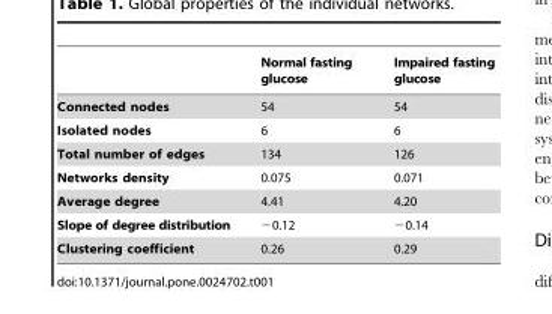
<table><thead><tr><td></td><td>Normal fasting glucose</td><td>Impaired fasting glucose</td></tr></thead><tbody><tr><td>Connected nodes</td><td>54</td><td>54</td></tr><tr><td>Isolated nodes</td><td>6</td><td>6</td></tr><tr><td>Total number of edges</td><td>134</td><td>126</td></tr><tr><td>Networks density</td><td>0.075</td><td>0.071</td></tr><tr><td>Average degree</td><td>4.41</td><td>4.20</td></tr><tr><td>Slope of degree distribution</td><td>−0.12</td><td>−0.14</td></tr><tr><td>Clustering coefficient</td><td>0.26</td><td>0.29</td></tr></tbody></table>